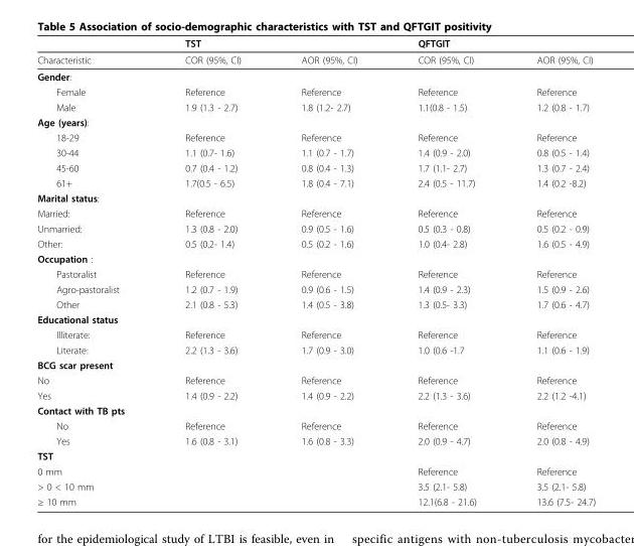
<table><thead><tr><td></td><td>TST</td><td></td><td>QFTGIT</td><td></td></tr></thead><tbody><tr><td>Characteristic</td><td>COR (95%, CI)</td><td>AOR (95%, CI)</td><td>COR (95%, CI)</td><td>AOR (95%, CI)</td></tr><tr><td colspan="5">Gender:</td></tr><tr><td>Female</td><td>Reference</td><td>Reference</td><td>Reference</td><td>Reference</td></tr><tr><td>Male</td><td>1.9 (1.3 - 2.7)</td><td>1.8 (1.2- 2.7)</td><td>1.1(0.8 - 1.5)</td><td>1.2 (0.8 - 1.7)</td></tr><tr><td colspan="5">Age (years):</td></tr><tr><td>18-29</td><td>Reference</td><td>Reference</td><td>Reference</td><td>Reference</td></tr><tr><td>30-44</td><td>1.1 (0.7- 1.6)</td><td>1.1 (0.7 - 1.7)</td><td>1.4 (0.9 - 2.0)</td><td>0.8 (0.5 - 1.4)</td></tr><tr><td>45-60</td><td>0.7 (0.4 - 1.2)</td><td>0.8 (0.4 - 1.3)</td><td>1.7 (1.1- 2.7)</td><td>1.3 (0.7 - 2.4)</td></tr><tr><td>61+</td><td>1.7(0.5 - 6.5)</td><td>1.8 (0.4 - 7.1)</td><td>2.4 (0.5 - 11.7)</td><td>1.4 (0.2 -8.2)</td></tr><tr><td colspan="5">Marital status:</td></tr><tr><td>Married:</td><td>Reference</td><td>Reference</td><td>Reference</td><td>Reference</td></tr><tr><td>Unmarried:</td><td>1.3 (0.8 - 2.0)</td><td>0.9 (0.5 - 1.6)</td><td>0.5 (0.3 - 0.8)</td><td>0.5 (0.2 - 0.9)</td></tr><tr><td>Other:</td><td>0.5 (0.2- 1.4)</td><td>0.5 (0.2 - 1.6)</td><td>1.0 (0.4- 2.8)</td><td>1.6 (0.5 - 4.9)</td></tr><tr><td colspan="5">Occupation :</td></tr><tr><td>Pastoralist</td><td>Reference</td><td>Reference</td><td>Reference</td><td>Reference</td></tr><tr><td>Agro-pastoralist</td><td>1.2 (0.7 - 1.9)</td><td>0.9 (0.6 - 1.5)</td><td>1.4 (0.9 - 2.3)</td><td>1.5 (0.9 - 2.6)</td></tr><tr><td>Other</td><td>2.1 (0.8 - 5.3)</td><td>1.4 (0.5 - 3.8)</td><td>1.3 (0.5- 3.3)</td><td>1.7 (0.6 - 4.7)</td></tr><tr><td colspan="5">Educational status</td></tr><tr><td>Illiterate:</td><td>Reference</td><td>Reference</td><td>Reference</td><td>Reference</td></tr><tr><td>Literate:</td><td>2.2 (1.3 - 3.6)</td><td>1.7 (0.9 - 3.0)</td><td>1.0 (0.6 -1.7</td><td>1.1 (0.6 - 1.9)</td></tr><tr><td colspan="5">BCG scar present</td></tr><tr><td>No</td><td>Reference</td><td>Reference</td><td>Reference</td><td>Reference</td></tr><tr><td>Yes</td><td>1.4 (0.9 - 2.2)</td><td>1.4 (0.9 - 2.2)</td><td>2.2 (1.3 - 3.6)</td><td>2.2 (1.2 -4.1)</td></tr><tr><td colspan="5">Contact with TB pts</td></tr><tr><td>No</td><td>Reference</td><td>Reference</td><td>Reference</td><td>Reference</td></tr><tr><td>Yes</td><td>1.6 (0.8 - 3.1)</td><td>1.6 (0.8 - 3.3)</td><td>2.0 (0.9 - 4.7)</td><td>2.0 (0.8 - 4.9)</td></tr><tr><td colspan="5">TST</td></tr><tr><td>0 mm</td><td></td><td></td><td>Reference</td><td>Reference</td></tr><tr><td>&gt; 0 &lt; 10 mm</td><td></td><td></td><td>3.5 (2.1- 5.8)</td><td>3.5 (2.1- 5.8)</td></tr><tr><td>≥ 10 mm</td><td></td><td></td><td>12.1(6.8 - 21.6)</td><td>13.6 (7.5- 24.7)</td></tr></tbody></table>